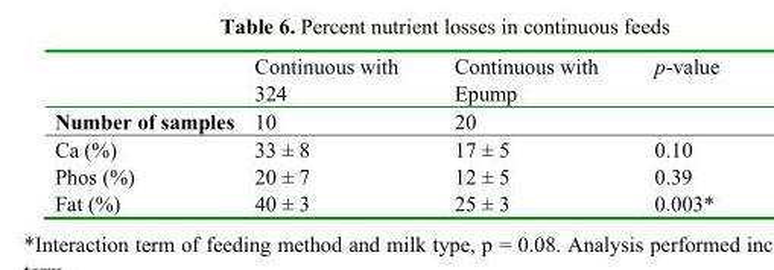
<table><thead><tr><td></td><td>Continuous with 324</td><td>Continuous with Epump</td><td>p-value</td></tr></thead><tbody><tr><td>Number of samples</td><td>10</td><td>20</td><td></td></tr><tr><td>Ca (%)</td><td>33 ± 8</td><td>17 ± 5</td><td>0.10</td></tr><tr><td>Phos (%)</td><td>20 ± 7</td><td>12 ± 5</td><td>0.39</td></tr><tr><td>Fat (%)</td><td>40 ± 3</td><td>25 ± 3</td><td>0.003*</td></tr></tbody></table>